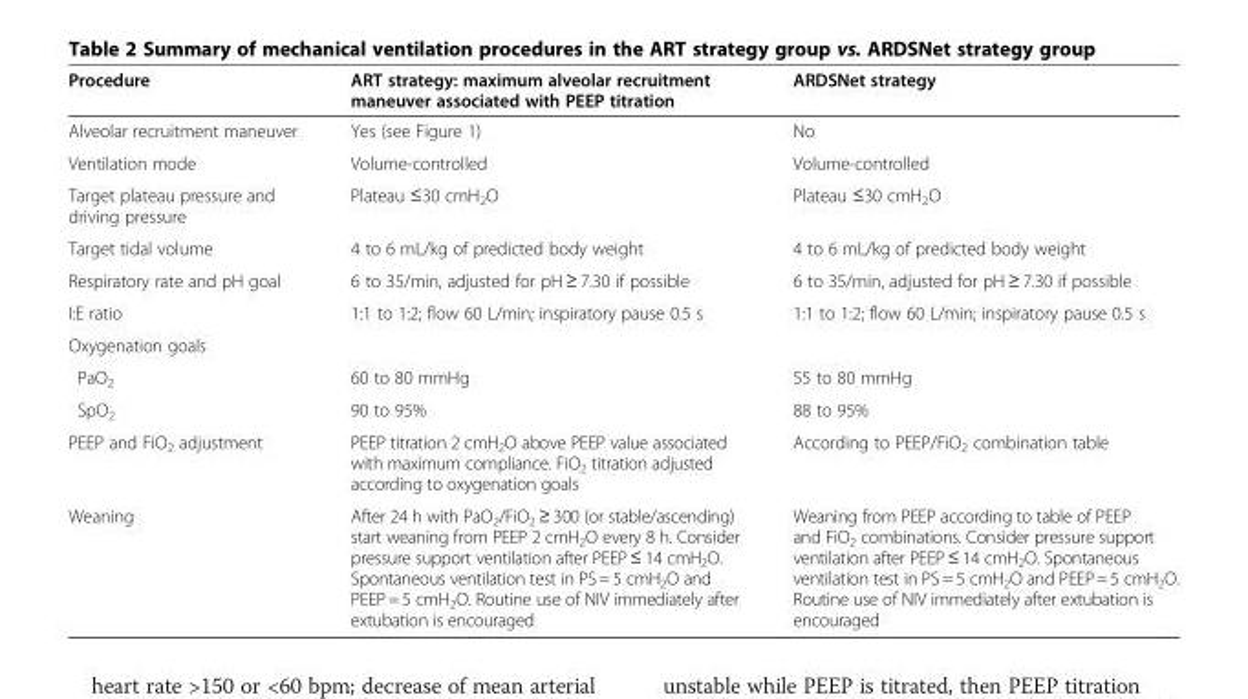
<table><thead><tr><td>Procedure</td><td>ART strategy: maximum alveolar recruitment maneuver associated with PEEP titration</td><td>ARDSNet strategy</td></tr></thead><tbody><tr><td>Alveolar recruitment maneuver</td><td>Yes (see Figure 1)</td><td>No</td></tr><tr><td>Ventilation mode</td><td>Volume-controlled</td><td>Volume-controlled</td></tr><tr><td>Target plateau pressure and driving pressure</td><td>Plateau ≤30 cmH<sub>2</sub>O</td><td>Plateau ≤30 cmH<sub>2</sub>O</td></tr><tr><td>Target tidal volume</td><td>4 to 6 mL/kg of predicted body weight</td><td>4 to 6 mL/kg of predicted body weight</td></tr><tr><td>Respiratory rate and pH goal</td><td>6 to 35/min, adjusted for pH ≥ 7.30 if possible</td><td>6 to 35/min, adjusted for pH ≥ 7.30 if possible</td></tr><tr><td>I:E ratio</td><td>1:1 to 1:2; flow 60 L/min; inspiratory pause 0.5 s</td><td>1:1 to 1:2; flow 60 L/min; inspiratory pause 0.5 s</td></tr><tr><td colspan="3">Oxygenation goals</td></tr><tr><td>PaO<sub>2</sub></td><td>60 to 80 mmHg</td><td>55 to 80 mmHg</td></tr><tr><td>SpO<sub>2</sub></td><td>90 to 95%</td><td>88 to 95%</td></tr><tr><td>PEEP and FiO<sub>2</sub> adjustment</td><td>PEEP titration 2 cmH<sub>2</sub>O above PEEP value associated with maximum compliance. FiO<sub>2</sub> titration adjusted according to oxygenation goals</td><td>According to PEEP/FiO<sub>2</sub> combination table</td></tr><tr><td>Weaning</td><td>After 24 h with PaO<sub>2</sub>/FiO<sub>2</sub> ≥ 300 (or stable/ascending) start weaning from PEEP 2 cmH<sub>2</sub>O every 8 h. Consider pressure support ventilation after PEEP≤ 14 cmH<sub>2</sub>O. Spontaneous ventilation test in PS= 5 cmH<sub>2</sub>O and PEEP= 5 cmH<sub>2</sub>O. Routine use of NIV immediately after extubation is encouraged</td><td>Weaning from PEEP according to table of PEEP and FiO<sub>2</sub> combinations. Consider pressure support ventilation after PEEP ≤ 14 cmH<sub>2</sub>O. Spontaneous ventilation test in PS= 5 cmH<sub>2</sub>O and PEEP= 5 cmH<sub>2</sub>O. Routine use of NIV immediately after extubation is encouraged</td></tr></tbody></table>